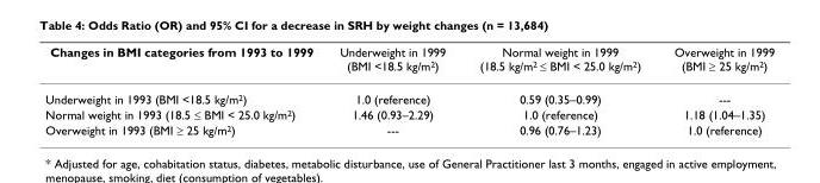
<table><thead><tr><td>Changes in BMI categories from 1993 to 1999</td><td>Underweight in 1999 (BMI &lt;18.5 kg/m<sup>2</sup>)</td><td>Normal weight in 1999 (18.5 kg/m<sup>2</sup> ≤ BMI &lt; 25.0 kg/m<sup>2</sup>)</td><td>Overweight in 1999 (BMI ≥ 25 kg/m<sup>2</sup>)</td></tr></thead><tbody><tr><td>Underweight in 1993 (BMI &lt;18.5 kg/m<sup>2</sup>)</td><td>1.0 (reference)</td><td>0.59 (0.35–0.99)</td><td>---</td></tr><tr><td>Normal weight in 1993 (18.5 ≤ BMI &lt; 25.0 kg/m<sup>2</sup>)</td><td>1.46 (0.93–2.29)</td><td>1.0 (reference)</td><td>1.18 (1.04–1.35)</td></tr><tr><td>Overweight in 1993 (BMI ≥ 25 kg/m<sup>2</sup>)</td><td>---</td><td>0.96 (0.76–1.23)</td><td>1.0 (reference)</td></tr></tbody></table>